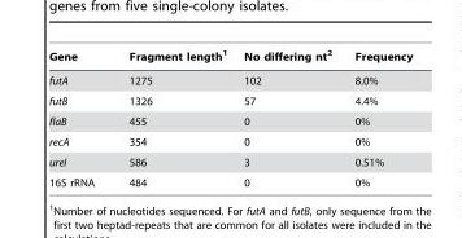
<table><thead><tr><td>Gene</td><td>Fragment length<sup>1</sup></td><td>No differing nt<sup>2</sup></td><td>Frequency</td></tr></thead><tbody><tr><td>futA</td><td>1275</td><td>102</td><td>8.0%</td></tr><tr><td>futB</td><td>1326</td><td>57</td><td>4.4%</td></tr><tr><td>flaB</td><td>455</td><td>0</td><td>0%</td></tr><tr><td>recA</td><td>354</td><td>0</td><td>0%</td></tr><tr><td>ureI</td><td>586</td><td>3</td><td>0.51%</td></tr><tr><td>16S rRNA</td><td>484</td><td>0</td><td>0%</td></tr></tbody></table>